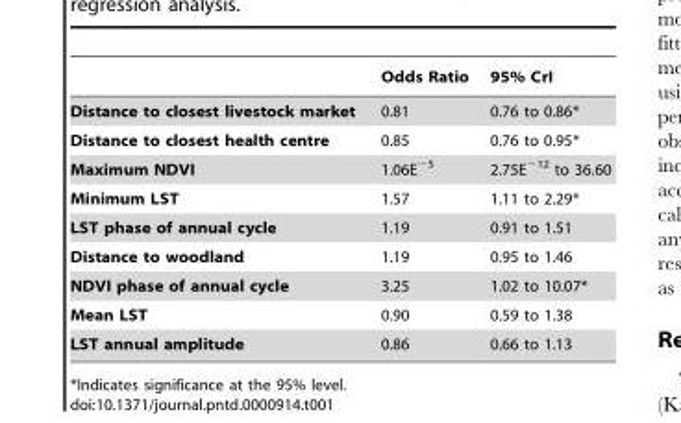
<table><thead><tr><td></td><td>Odds Ratio</td><td>95% CrI</td></tr></thead><tbody><tr><td>Distance to closest livestock market</td><td>0.81</td><td>0.76 to 0.86*</td></tr><tr><td>Distance to closest health centre</td><td>0.85</td><td>0.76 to 0.95*</td></tr><tr><td>Maximum NDVI</td><td>1.06E<sup>−5</sup></td><td>2.75E<sup>−12</sup> to 36.60</td></tr><tr><td>Minimum LST</td><td>1.57</td><td>1.11 to 2.29*</td></tr><tr><td>LST phase of annual cycle</td><td>1.19</td><td>0.91 to 1.51</td></tr><tr><td>Distance to woodland</td><td>1.19</td><td>0.95 to 1.46</td></tr><tr><td>NDVI phase of annual cycle</td><td>3.25</td><td>1.02 to 10.07*</td></tr><tr><td>Mean LST</td><td>0.90</td><td>0.59 to 1.38</td></tr><tr><td>LST annual amplitude</td><td>0.86</td><td>0.66 to 1.13</td></tr></tbody></table>